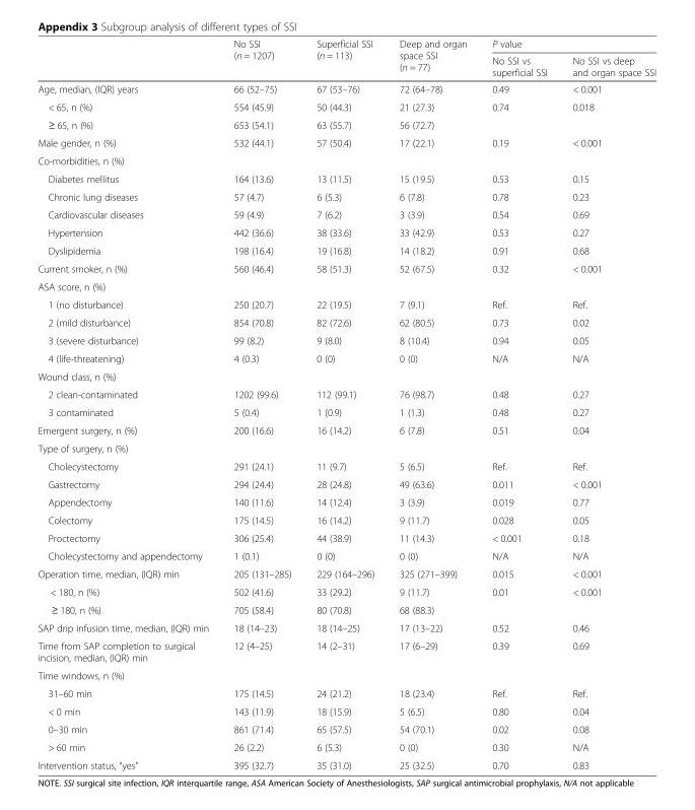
<table><thead><tr><td rowspan="2"></td><td rowspan="2">No SSI (n = 1207)</td><td rowspan="2">Superficial SSI (n = 113)</td><td rowspan="2">Deep and organ space SSI (n = 77)</td><td colspan="2">P value</td></tr><tr><td>No SSI vs superficial SSI</td><td>No SSI vs deep and organ space SSI</td></tr></thead><tbody><tr><td>Age, median, (IQR) years</td><td>66 (52–75)</td><td>67 (53–76)</td><td>72 (64–78)</td><td>0.49</td><td>&lt; 0.001</td></tr><tr><td>&lt; 65, n (%)</td><td>554 (45.9)</td><td>50 (44.3)</td><td>21 (27.3)</td><td>0.74</td><td>0.018</td></tr><tr><td>≥ 65, n (%)</td><td>653 (54.1)</td><td>63 (55.7)</td><td>56 (72.7)</td><td></td><td></td></tr><tr><td>Male gender, n (%)</td><td>532 (44.1)</td><td>57 (50.4)</td><td>17 (22.1)</td><td>0.19</td><td>&lt; 0.001</td></tr><tr><td colspan="6">Co-morbidities, n (%)</td></tr><tr><td>Diabetes mellitus</td><td>164 (13.6)</td><td>13 (11.5)</td><td>15 (19.5)</td><td>0.53</td><td>0.15</td></tr><tr><td>Chronic lung diseases</td><td>57 (4.7)</td><td>6 (5.3)</td><td>6 (7.8)</td><td>0.78</td><td>0.23</td></tr><tr><td>Cardiovascular diseases</td><td>59 (4.9)</td><td>7 (6.2)</td><td>3 (3.9)</td><td>0.54</td><td>0.69</td></tr><tr><td>Hypertension</td><td>442 (36.6)</td><td>38 (33.6)</td><td>33 (42.9)</td><td>0.53</td><td>0.27</td></tr><tr><td>Dyslipidemia</td><td>198 (16.4)</td><td>19 (16.8)</td><td>14 (18.2)</td><td>0.91</td><td>0.68</td></tr><tr><td>Current smoker, n (%)</td><td>560 (46.4)</td><td>58 (51.3)</td><td>52 (67.5)</td><td>0.32</td><td>&lt; 0.001</td></tr><tr><td colspan="6">ASA score, n (%)</td></tr><tr><td>1 (no disturbance)</td><td>250 (20.7)</td><td>22 (19.5)</td><td>7 (9.1)</td><td>Ref.</td><td>Ref.</td></tr><tr><td>2 (mild disturbance)</td><td>854 (70.8)</td><td>82 (72.6)</td><td>62 (80.5)</td><td>0.73</td><td>0.02</td></tr><tr><td>3 (severe disturbance)</td><td>99 (8.2)</td><td>9 (8.0)</td><td>8 (10.4)</td><td>0.94</td><td>0.05</td></tr><tr><td>4 (life-threatening)</td><td>4 (0.3)</td><td>0 (0)</td><td>0 (0)</td><td>N/A</td><td>N/A</td></tr><tr><td colspan="6">Wound class, n (%)</td></tr><tr><td>2 clean-contaminated</td><td>1202 (99.6)</td><td>112 (99.1)</td><td>76 (98.7)</td><td>0.48</td><td>0.27</td></tr><tr><td>3 contaminated</td><td>5 (0.4)</td><td>1 (0.9)</td><td>1 (1.3)</td><td>0.48</td><td>0.27</td></tr><tr><td>Emergent surgery, n (%)</td><td>200 (16.6)</td><td>16 (14.2)</td><td>6 (7.8)</td><td>0.51</td><td>0.04</td></tr><tr><td colspan="6">Type of surgery, n (%)</td></tr><tr><td>Cholecystectomy</td><td>291 (24.1)</td><td>11 (9.7)</td><td>5 (6.5)</td><td>Ref.</td><td>Ref.</td></tr><tr><td>Gastrectomy</td><td>294 (24.4)</td><td>28 (24.8)</td><td>49 (63.6)</td><td>0.011</td><td>&lt; 0.001</td></tr><tr><td>Appendectomy</td><td>140 (11.6)</td><td>14 (12.4)</td><td>3 (3.9)</td><td>0.019</td><td>0.77</td></tr><tr><td>Colectomy</td><td>175 (14.5)</td><td>16 (14.2)</td><td>9 (11.7)</td><td>0.028</td><td>0.05</td></tr><tr><td>Proctectomy</td><td>306 (25.4)</td><td>44 (38.9)</td><td>11 (14.3)</td><td>&lt; 0.001</td><td>0.18</td></tr><tr><td>Cholecystectomy and appendectomy</td><td>1 (0.1)</td><td>0 (0)</td><td>0 (0)</td><td>N/A</td><td>N/A</td></tr><tr><td>Operation time, median, (IQR) min</td><td>205 (131–285)</td><td>229 (164–296)</td><td>325 (271–399)</td><td>0.015</td><td>&lt; 0.001</td></tr><tr><td>&lt; 180, n (%)</td><td>502 (41.6)</td><td>33 (29.2)</td><td>9 (11.7)</td><td>0.01</td><td>&lt; 0.001</td></tr><tr><td>≥ 180, n (%)</td><td>705 (58.4)</td><td>80 (70.8)</td><td>68 (88.3)</td><td></td><td></td></tr><tr><td>SAP drip infusion time, median, (IQR) min</td><td>18 (14–23)</td><td>18 (14–25)</td><td>17 (13–22)</td><td>0.52</td><td>0.46</td></tr><tr><td>Time from SAP completion to surgical incision, median, (IQR) min</td><td>12 (4–25)</td><td>14 (2–31)</td><td>17 (6–29)</td><td>0.39</td><td>0.69</td></tr><tr><td colspan="6">Time windows, n (%)</td></tr><tr><td>31–60 min</td><td>175 (14.5)</td><td>24 (21.2)</td><td>18 (23.4)</td><td>Ref.</td><td>Ref.</td></tr><tr><td>&lt; 0 min</td><td>143 (11.9)</td><td>18 (15.9)</td><td>5 (6.5)</td><td>0.80</td><td>0.04</td></tr><tr><td>0–30 min</td><td>861 (71.4)</td><td>65 (57.5)</td><td>54 (70.1)</td><td>0.02</td><td>0.08</td></tr><tr><td>&gt; 60 min</td><td>26 (2.2)</td><td>6 (5.3)</td><td>0 (0)</td><td>0.30</td><td>N/A</td></tr><tr><td>Intervention status, “yes”</td><td>395 (32.7)</td><td>35 (31.0)</td><td>25 (32.5)</td><td>0.70</td><td>0.83</td></tr></tbody></table>